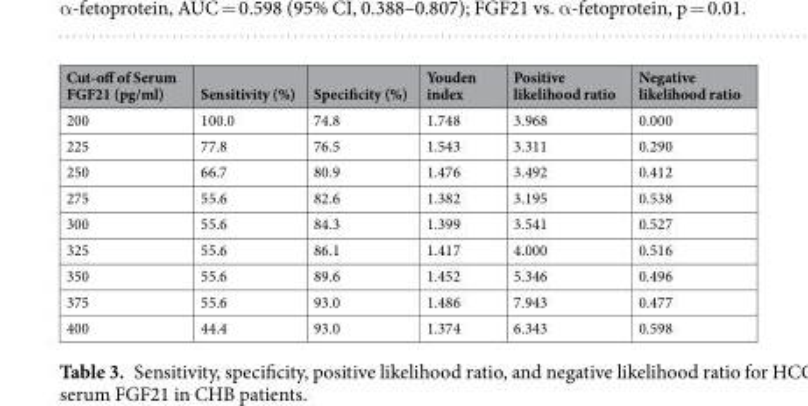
<table><thead><tr><td>Cut-off of Serum FGF21 (pg/ml)</td><td>Sensitivity (%)</td><td>Specificity (%)</td><td>Youden index</td><td>Positive likelihood ratio</td><td>Negative likelihood ratio</td></tr></thead><tbody><tr><td>200</td><td>100.0</td><td>74.8</td><td>1.748</td><td>3.968</td><td>0.000</td></tr><tr><td>225</td><td>77.8</td><td>76.5</td><td>1.543</td><td>3.311</td><td>0.290</td></tr><tr><td>250</td><td>66.7</td><td>80.9</td><td>1.476</td><td>3.492</td><td>0.412</td></tr><tr><td>275</td><td>55.6</td><td>82.6</td><td>1.382</td><td>3.195</td><td>0.538</td></tr><tr><td>300</td><td>55.6</td><td>84.3</td><td>1.399</td><td>3.541</td><td>0.527</td></tr><tr><td>325</td><td>55.6</td><td>86.1</td><td>1.417</td><td>4.000</td><td>0.516</td></tr><tr><td>350</td><td>55.6</td><td>89.6</td><td>1.452</td><td>5.346</td><td>0.496</td></tr><tr><td>375</td><td>55.6</td><td>93.0</td><td>1.486</td><td>7.943</td><td>0.477</td></tr><tr><td>400</td><td>44.4</td><td>93.0</td><td>1.374</td><td>6.343</td><td>0.598</td></tr></tbody></table>